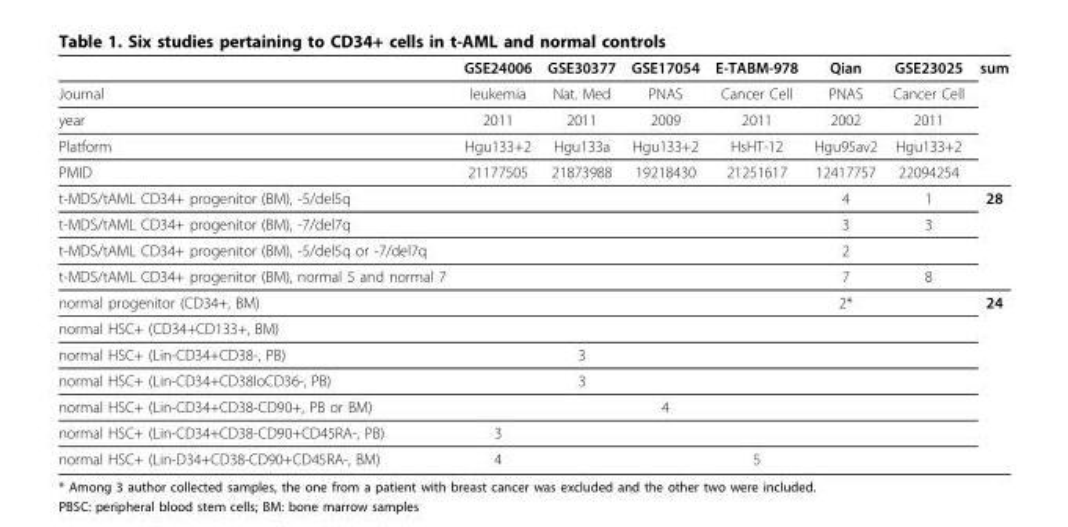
<table><thead><tr><td rowspan="5">Journal year Platform PMID</td><td rowspan="5">GSE24006 leukemia 2011 Hgu133+2 21177505</td><td rowspan="5">GSE30377 Nat. Med 2011 Hgu133a 21873988</td><td rowspan="5">GSE17054 PNAS 2009 Hgu133+2 19218430</td><td rowspan="5">E-TABM-978 Cancer Cell 2011 HsHT-12 21251617</td><td rowspan="5">Qian PNAS 2002 Hgu95av2 12417757</td><td rowspan="5">GSE23025 Cancer Cell 2011 Hgu133+2 22094254</td><td rowspan="5">sum</td></tr><tr></tr><tr></tr><tr></tr><tr></tr></thead><tbody><tr><td>t-MDS/tAML CD34+ progenitor (BM), -5/del5q</td><td></td><td></td><td></td><td></td><td>4</td><td>1</td><td>28</td></tr><tr><td>t-MDS/tAML CD34+ progenitor (BM), -7/del7q</td><td></td><td></td><td></td><td></td><td>3</td><td>3</td><td></td></tr><tr><td>t-MDS/tAML CD34+ progenitor (BM), -5/del5q or -7/del7q</td><td></td><td></td><td></td><td></td><td>2</td><td></td><td></td></tr><tr><td>t-MDS/tAML CD34+ progenitor (BM), normal 5 and normal 7</td><td></td><td></td><td></td><td></td><td>7</td><td>8</td><td></td></tr><tr><td>normal progenitor (CD34+, BM)</td><td></td><td></td><td></td><td></td><td>2*</td><td></td><td>24</td></tr><tr><td colspan="8">normal HSC+ (CD34+CD133+, BM)</td></tr><tr><td>normal HSC+ (Lin-CD34+CD38-, PB)</td><td></td><td>3</td><td></td><td></td><td></td><td></td><td></td></tr><tr><td>normal HSC+ (Lin-CD34+CD38loCD36-, PB)</td><td></td><td>3</td><td></td><td></td><td></td><td></td><td></td></tr><tr><td>normal HSC+ (Lin-CD34+CD38-CD90+, PB or BM)</td><td></td><td></td><td>4</td><td></td><td></td><td></td><td></td></tr><tr><td>normal HSC+ (Lin-CD34+CD38-CD90+CD45RA-, PB)</td><td>3</td><td></td><td></td><td></td><td></td><td></td><td></td></tr><tr><td>normal HSC+ (Lin-D34+CD38-CD90+CD45RA-, BM)</td><td>4</td><td></td><td></td><td>5</td><td></td><td></td><td></td></tr></tbody></table>